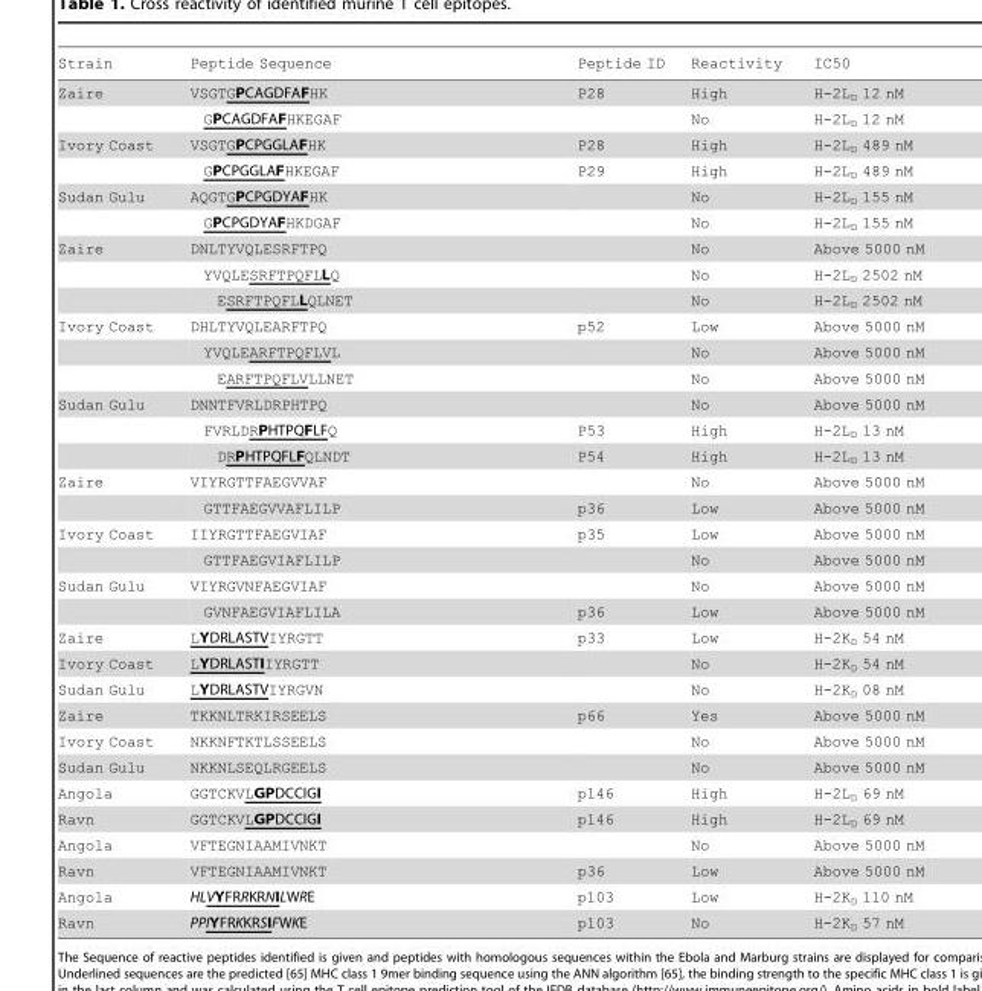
<table><thead><tr><td>Strain</td><td>Peptide Sequence</td><td>Peptide ID</td><td>Reactivity</td><td>IC50</td></tr></thead><tbody><tr><td rowspan="2">Zaire</td><td>VSGTGPCAGDFAFHK</td><td>P28</td><td>High</td><td>H-2L<sub>D</sub> 12 nM</td></tr><tr><td>GPCAGDFAFHKEGAF</td><td></td><td>No</td><td>H-2L<sub>D</sub> 12 nM</td></tr><tr><td rowspan="2">Ivory Coast</td><td>VSGTGPCPGGLAFHK</td><td>P28</td><td>High</td><td>H-2L<sub>D</sub> 489 nM</td></tr><tr><td>GPCPGGLAFHKEGAF</td><td>P29</td><td>High</td><td>H-2L<sub>D</sub> 489 nM</td></tr><tr><td rowspan="2">Sudan Gulu</td><td>AQGTGPCPGDYAFHK</td><td></td><td>No</td><td>H-2L<sub>D</sub> 155 nM</td></tr><tr><td>GPCPGDYAFHKDGAF</td><td></td><td>No</td><td>H-2L<sub>D</sub> 155 nM</td></tr><tr><td rowspan="3">Zaire</td><td>DNLTYVQLESRFTPQ</td><td></td><td>No</td><td>Above 5000 nM</td></tr><tr><td>YVQLESRFTPQFLLQ</td><td></td><td>No</td><td>H-2L<sub>D</sub> 2502 nM</td></tr><tr><td>ESRFTPQFLLQLNET</td><td></td><td>No</td><td>H-2L<sub>D</sub> 2502 nM</td></tr><tr><td rowspan="3">Ivory Coast</td><td>DHLTYVQLEARFTPQ</td><td>p52</td><td>Low</td><td>Above 5000 nM</td></tr><tr><td>YVQLEARFTPQFLVL</td><td></td><td>No</td><td>Above 5000 nM</td></tr><tr><td>EARFTPQFLVLLNET</td><td></td><td>No</td><td>Above 5000 nM</td></tr><tr><td rowspan="3">Sudan Gulu</td><td>DNNTFVRLDRPHTPQ</td><td></td><td>No</td><td>Above 5000 nM</td></tr><tr><td>FVRLDRPHTPQFLFQ</td><td>P53</td><td>High</td><td>H-2L<sub>D</sub> 13 nM</td></tr><tr><td>DRPHTPQFLFQLNDT</td><td>P54</td><td>High</td><td>H-2L<sub>D</sub> 13 nM</td></tr><tr><td rowspan="2">Zaire</td><td>VIYRGTTFAEGVVAF</td><td></td><td>No</td><td>Above 5000 nM</td></tr><tr><td>GTTFAEGVVAFLILP</td><td>p36</td><td>Low</td><td>Above 5000 nM</td></tr><tr><td rowspan="2">Ivory Coast</td><td>IIYRGTTFAEGVIAF</td><td>p35</td><td>Low</td><td>Above 5000 nM</td></tr><tr><td>GTTFAEGVIAFLILP</td><td></td><td>No</td><td>Above 5000 nM</td></tr><tr><td rowspan="2">Sudan Gulu</td><td>VIYRGVNFAEGVIAF</td><td></td><td>No</td><td>Above 5000 nM</td></tr><tr><td>GVNFAEGVIAFLILA</td><td>p36</td><td>Low</td><td>Above 5000 nM</td></tr><tr><td>Zaire</td><td>LYDRLASTVIYRGTT</td><td>p33</td><td>Low</td><td>H-2K<sub>D</sub> 54 nM</td></tr><tr><td>Ivory Coast</td><td>LYDRLASTIIYRGTT</td><td></td><td>No</td><td>H-2K<sub>D</sub> 54 nM</td></tr><tr><td>Sudan Gulu</td><td>LYDRLASTVIYRGVN</td><td></td><td>No</td><td>H-2K<sub>D</sub> 08 nM</td></tr><tr><td>Zaire</td><td>TKKNLTRKIRSEELS</td><td>p66</td><td>Yes</td><td>Above 5000 nM</td></tr><tr><td>Ivory Coast</td><td>NKKNFTKTLSSEELS</td><td></td><td>No</td><td>Above 5000 nM</td></tr><tr><td>Sudan Gulu</td><td>NKKNLSEQLRGEELS</td><td></td><td>No</td><td>Above 5000 nM</td></tr><tr><td>Angola</td><td>GGTCKVLGPDCCIGI</td><td>p146</td><td>High</td><td>H-2L<sub>D</sub> 69 nM</td></tr><tr><td>Ravn</td><td>GGTCKVLGPDCCIGI</td><td>p146</td><td>High</td><td>H-2L<sub>D</sub> 69 nM</td></tr><tr><td>Angola</td><td>VFTEGNIAAMIVNKT</td><td></td><td>No</td><td>Above 5000 nM</td></tr><tr><td>Ravn</td><td>VFTEGNIAAMIVNKT</td><td>p36</td><td>Low</td><td>Above 5000 nM</td></tr><tr><td>Angola</td><td>HLVYFRRKRNILWRE</td><td>p103</td><td>Low</td><td>H-2K<sub>D</sub> 110 nM</td></tr><tr><td>Ravn</td><td>PPIYFRKKRSIFWKE</td><td>p103</td><td>No</td><td>H-2K<sub>D</sub> 57 nM</td></tr></tbody></table>